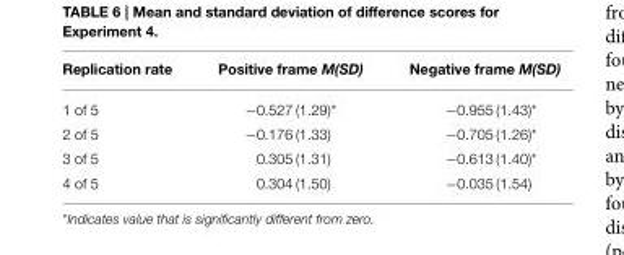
<table><thead><tr><td>Replication rate</td><td>Positive frame M(SD)</td><td>Negative frame M(SD)</td></tr></thead><tbody><tr><td>1 of 5</td><td>−0.527 (1.29)*</td><td>−0.955 (1.43)*</td></tr><tr><td>2 of 5</td><td>−0.176 (1.33)</td><td>−0.705 (1.26)*</td></tr><tr><td>3 of 5</td><td>0.305 (1.31)</td><td>−0.613 (1.40)*</td></tr><tr><td>4 of 5</td><td>0.304 (1.50)</td><td>−0.035 (1.54)</td></tr></tbody></table>